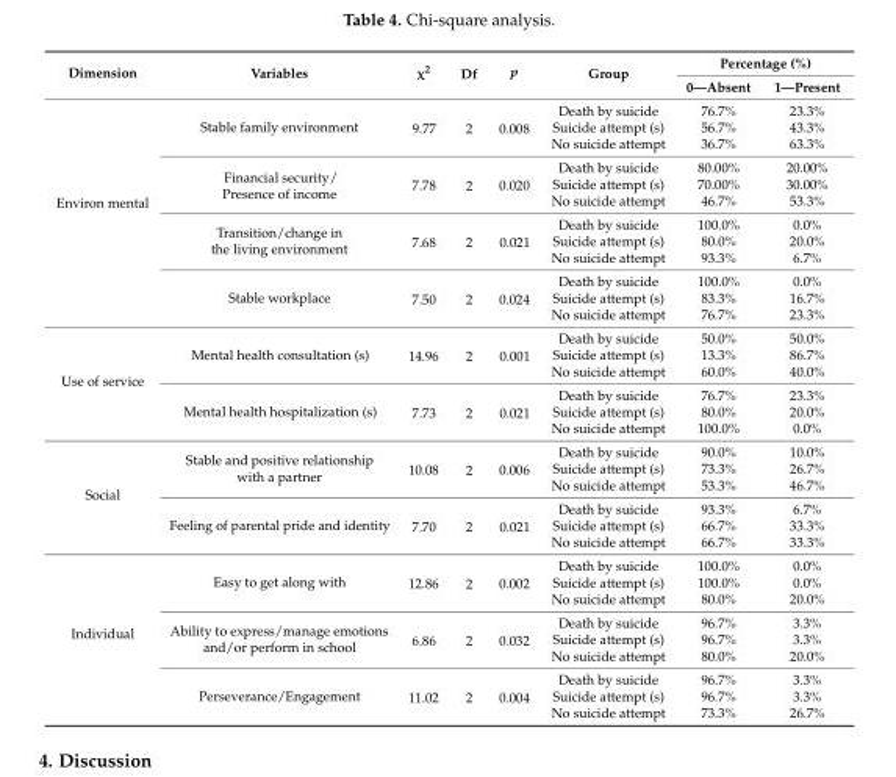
<table><thead><tr><td rowspan="2">Dimension</td><td rowspan="2">Variables</td><td rowspan="2">χ<sup>2</sup></td><td rowspan="2">Df</td><td rowspan="2">p</td><td rowspan="2">Group</td><td colspan="2">Percentage (%)</td></tr><tr><td>0—Absent</td><td>1—Present</td></tr></thead><tbody><tr><td rowspan="12">Environ mental</td><td rowspan="3">Stable family environment</td><td rowspan="3">9.77</td><td rowspan="3">2</td><td rowspan="3">0.008</td><td>Death by suicide</td><td>76.7%</td><td>23.3%</td></tr><tr><td>Suicide attempt (s)</td><td>56.7%</td><td>43.3%</td></tr><tr><td>No suicide attempt</td><td>36.7%</td><td>63.3%</td></tr><tr><td rowspan="3">Financial security/ Presence of income</td><td rowspan="3">7.78</td><td rowspan="3">2</td><td rowspan="3">0.020</td><td>Death by suicide</td><td>80.00%</td><td>20.00%</td></tr><tr><td>Suicide attempt (s)</td><td>70.00%</td><td>30.00%</td></tr><tr><td>No suicide attempt</td><td>46.7%</td><td>53.3%</td></tr><tr><td rowspan="3">Transition/change in the living environment</td><td rowspan="3">7.68</td><td rowspan="3">2</td><td rowspan="3">0.021</td><td>Death by suicide</td><td>100.0%</td><td>0.0%</td></tr><tr><td>Suicide attempt (s)</td><td>80.0%</td><td>20.0%</td></tr><tr><td>No suicide attempt</td><td>93.3%</td><td>6.7%</td></tr><tr><td rowspan="3">Stable workplace</td><td rowspan="3">7.50</td><td rowspan="3">2</td><td rowspan="3">0.024</td><td>Death by suicide</td><td>100.0%</td><td>0.0%</td></tr><tr><td>Suicide attempt (s)</td><td>83.3%</td><td>16.7%</td></tr><tr><td>No suicide attempt</td><td>76.7%</td><td>23.3%</td></tr><tr><td rowspan="6">Use of service</td><td rowspan="3">Mental health consultation (s)</td><td rowspan="3">14.96</td><td rowspan="3">2</td><td rowspan="3">0.001</td><td>Death by suicide</td><td>50.0%</td><td>50.0%</td></tr><tr><td>Suicide attempt (s)</td><td>13.3%</td><td>86.7%</td></tr><tr><td>No suicide attempt</td><td>60.0%</td><td>40.0%</td></tr><tr><td rowspan="3">Mental health hospitalization (s)</td><td rowspan="3">7.73</td><td rowspan="3">2</td><td rowspan="3">0.021</td><td>Death by suicide</td><td>76.7%</td><td>23.3%</td></tr><tr><td>Suicide attempt (s)</td><td>80.0%</td><td>20.0%</td></tr><tr><td>No suicide attempt</td><td>100.0%</td><td>0.0%</td></tr><tr><td rowspan="6">Social</td><td rowspan="3">Stable and positive relationship with a partner</td><td rowspan="3">10.08</td><td rowspan="3">2</td><td rowspan="3">0.006</td><td>Death by suicide</td><td>90.0%</td><td>10.0%</td></tr><tr><td>Suicide attempt (s)</td><td>73.3%</td><td>26.7%</td></tr><tr><td>No suicide attempt</td><td>53.3%</td><td>46.7%</td></tr><tr><td rowspan="3">Feeling of parental pride and identity</td><td rowspan="3">7.70</td><td rowspan="3">2</td><td rowspan="3">0.021</td><td>Death by suicide</td><td>93.3%</td><td>6.7%</td></tr><tr><td>Suicide attempt (s)</td><td>66.7%</td><td>33.3%</td></tr><tr><td>No suicide attempt</td><td>66.7%</td><td>33.3%</td></tr><tr><td rowspan="9">Individual</td><td rowspan="3">Easy to get along with</td><td rowspan="3">12.86</td><td rowspan="3">2</td><td rowspan="3">0.002</td><td>Death by suicide</td><td>100.0%</td><td>0.0%</td></tr><tr><td>Suicide attempt (s)</td><td>100.0%</td><td>0.0%</td></tr><tr><td>No suicide attempt</td><td>80.0%</td><td>20.0%</td></tr><tr><td rowspan="3">Ability to express/manage emotions and/or perform in school</td><td rowspan="3">6.86</td><td rowspan="3">2</td><td rowspan="3">0.032</td><td>Death by suicide</td><td>96.7%</td><td>3.3%</td></tr><tr><td>Suicide attempt (s)</td><td>96.7%</td><td>3.3%</td></tr><tr><td>No suicide attempt</td><td>80.0%</td><td>20.0%</td></tr><tr><td rowspan="3">Perseverance/Engagement</td><td rowspan="3">11.02</td><td rowspan="3">2</td><td rowspan="3">0.004</td><td>Death by suicide</td><td>96.7%</td><td>3.3%</td></tr><tr><td>Suicide attempt (s)</td><td>96.7%</td><td>3.3%</td></tr><tr><td>No suicide attempt</td><td>73.3%</td><td>26.7%</td></tr></tbody></table>